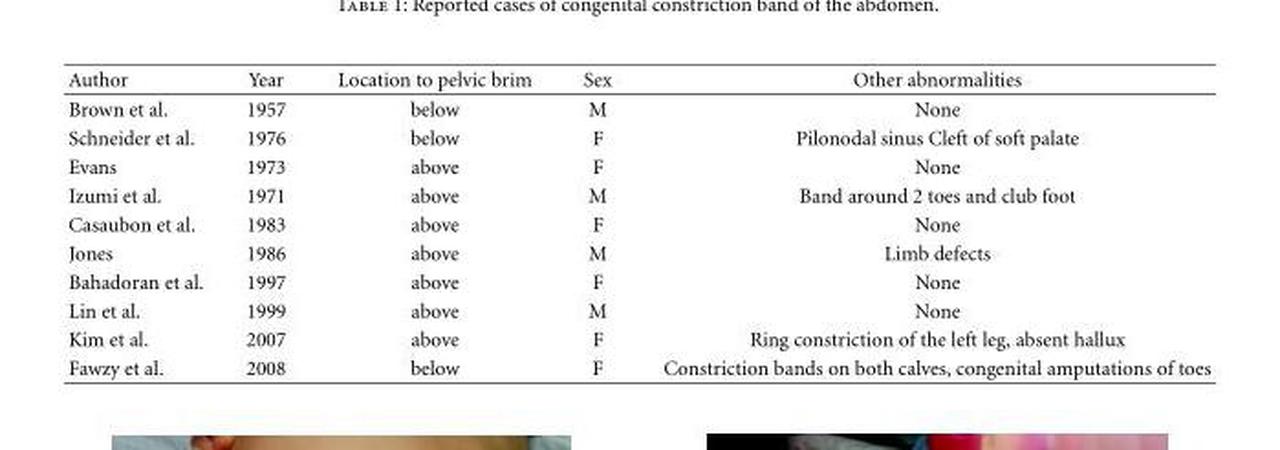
<table><thead><tr><td>Author</td><td>Year</td><td>Location to pelvic brim</td><td>Sex</td><td>Other abnormalities</td></tr></thead><tbody><tr><td>Brown et al.</td><td>1957</td><td>below</td><td>M</td><td>None</td></tr><tr><td>Schneider et al.</td><td>1976</td><td>below</td><td>F</td><td>Pilonodal sinus Cleft of soft palate</td></tr><tr><td>Evans</td><td>1973</td><td>above</td><td>F</td><td>None</td></tr><tr><td>Izumi et al.</td><td>1971</td><td>above</td><td>M</td><td>Band around 2 toes and club foot</td></tr><tr><td>Casaubon et al.</td><td>1983</td><td>above</td><td>F</td><td>None</td></tr><tr><td>Jones</td><td>1986</td><td>above</td><td>M</td><td>Limb defects</td></tr><tr><td>Bahadoran et al.</td><td>1997</td><td>above</td><td>F</td><td>None</td></tr><tr><td>Lin et al.</td><td>1999</td><td>above</td><td>M</td><td>None</td></tr><tr><td>Kim et al.</td><td>2007</td><td>above</td><td>F</td><td>Ring constriction of the left leg, absent hallux</td></tr><tr><td>Fawzy et al.</td><td>2008</td><td>below</td><td>F</td><td>Constriction bands on both calves, congenital amputations of toes</td></tr></tbody></table>